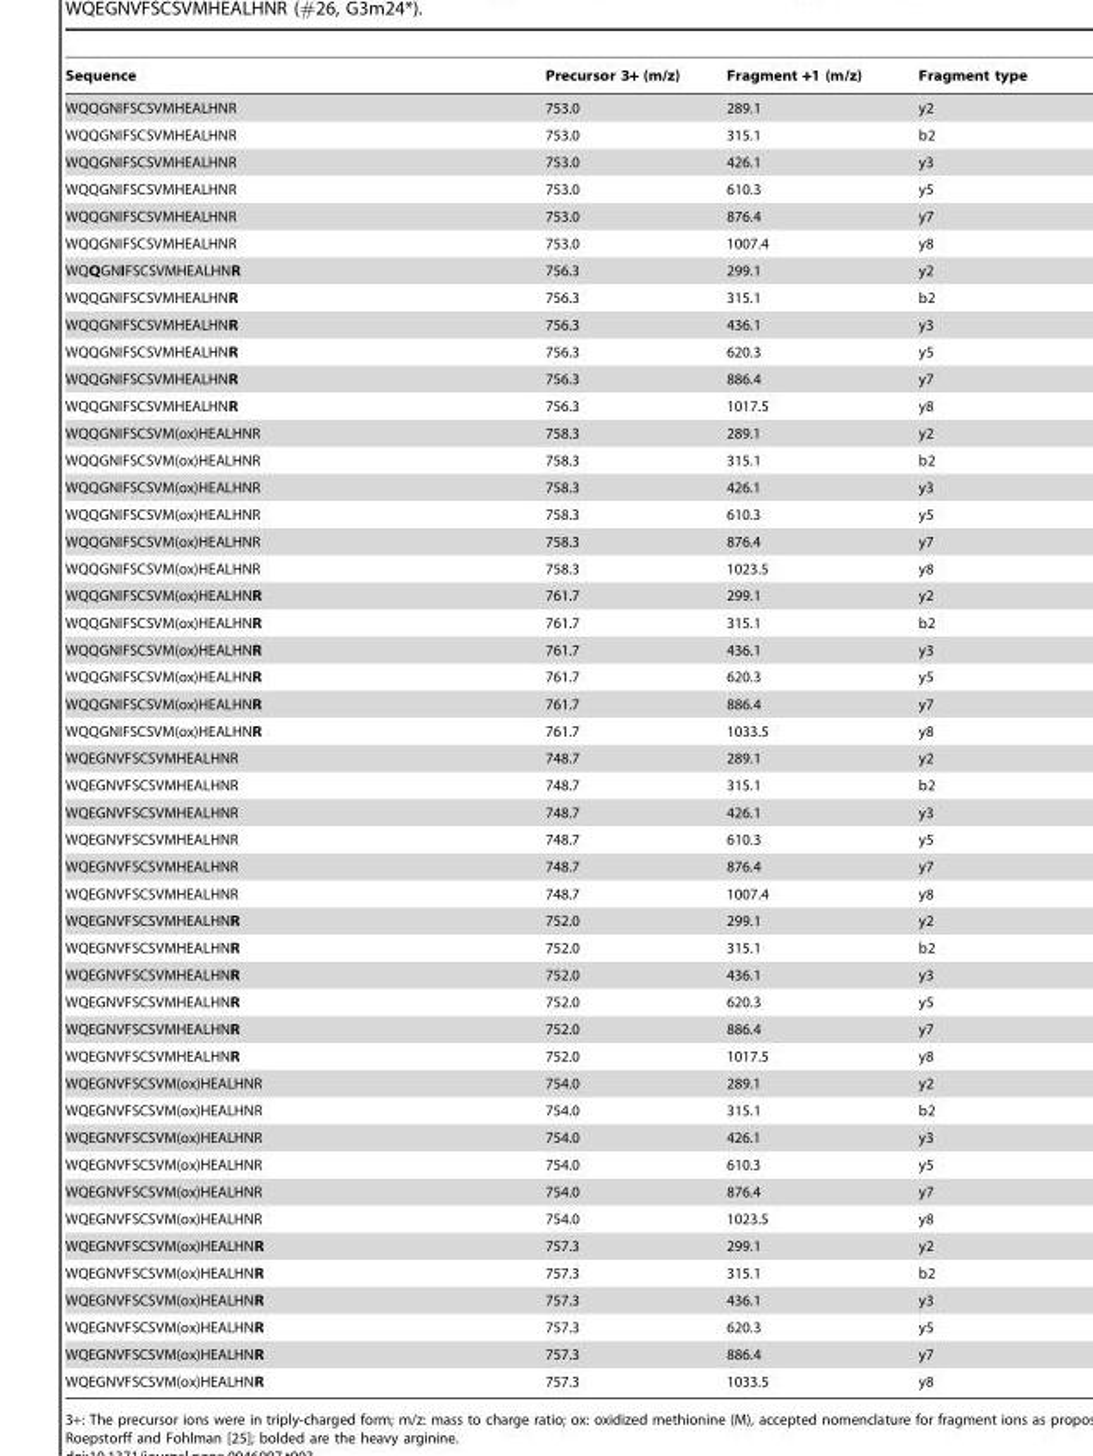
<table><thead><tr><td>Sequence</td><td>Precursor 3+ (m/z)</td><td>Fragment +1 (m/z)</td><td>Fragment type</td></tr></thead><tbody><tr><td>WQQGNIFSCSVMHEALHNR</td><td>753.0</td><td>289.1</td><td>y2</td></tr><tr><td>WQQGNIFSCSVMHEALHNR</td><td>753.0</td><td>315.1</td><td>b2</td></tr><tr><td>WQQGNIFSCSVMHEALHNR</td><td>753.0</td><td>426.1</td><td>y3</td></tr><tr><td>WQQGNIFSCSVMHEALHNR</td><td>753.0</td><td>610.3</td><td>y5</td></tr><tr><td>WQQGNIFSCSVMHEALHNR</td><td>753.0</td><td>876.4</td><td>y7</td></tr><tr><td>WQQGNIFSCSVMHEALHNR</td><td>753.0</td><td>1007.4</td><td>y8</td></tr><tr><td>WQQGNIFSCSVMHEALHNR</td><td>756.3</td><td>299.1</td><td>y2</td></tr><tr><td>WQQGNIFSCSVMHEALHNR</td><td>756.3</td><td>315.1</td><td>b2</td></tr><tr><td>WQQGNIFSCSVMHEALHNR</td><td>756.3</td><td>436.1</td><td>y3</td></tr><tr><td>WQQGNIFSCSVMHEALHNR</td><td>756.3</td><td>620.3</td><td>y5</td></tr><tr><td>WQQGNIFSCSVMHEALHNR</td><td>756.3</td><td>886.4</td><td>y7</td></tr><tr><td>WQQGNIFSCSVMHEALHNR</td><td>756.3</td><td>1017.5</td><td>y8</td></tr><tr><td>WQQGNIFSCSVM(ox)HEALHNR</td><td>758.3</td><td>289.1</td><td>y2</td></tr><tr><td>WQQGNIFSCSVM(ox)HEALHNR</td><td>758.3</td><td>315.1</td><td>b2</td></tr><tr><td>WQQGNIFSCSVM(ox)HEALHNR</td><td>758.3</td><td>426.1</td><td>y3</td></tr><tr><td>WQQGNIFSCSVM(ox)HEALHNR</td><td>758.3</td><td>610.3</td><td>y5</td></tr><tr><td>WQQGNIFSCSVM(ox)HEALHNR</td><td>758.3</td><td>876.4</td><td>y7</td></tr><tr><td>WQQGNIFSCSVM(ox)HEALHNR</td><td>758.3</td><td>1023.5</td><td>y8</td></tr><tr><td>WQQGNIFSCSVM(ox)HEALHNR</td><td>761.7</td><td>299.1</td><td>y2</td></tr><tr><td>WQQGNIFSCSVM(ox)HEALHNR</td><td>761.7</td><td>315.1</td><td>b2</td></tr><tr><td>WQQGNIFSCSVM(ox)HEALHNR</td><td>761.7</td><td>436.1</td><td>y3</td></tr><tr><td>WQQGNIFSCSVM(ox)HEALHNR</td><td>761.7</td><td>620.3</td><td>y5</td></tr><tr><td>WQQGNIFSCSVM(ox)HEALHNR</td><td>761.7</td><td>886.4</td><td>y7</td></tr><tr><td>WQQGNIFSCSVM(ox)HEALHNR</td><td>761.7</td><td>1033.5</td><td>y8</td></tr><tr><td>WQEGNVFSCSVMHEALHNR</td><td>748.7</td><td>289.1</td><td>y2</td></tr><tr><td>WQEGNVFSCSVMHEALHNR</td><td>748.7</td><td>315.1</td><td>b2</td></tr><tr><td>WQEGNVFSCSVMHEALHNR</td><td>748.7</td><td>426.1</td><td>y3</td></tr><tr><td>WQEGNVFSCSVMHEALHNR</td><td>748.7</td><td>610.3</td><td>y5</td></tr><tr><td>WQEGNVFSCSVMHEALHNR</td><td>748.7</td><td>876.4</td><td>y7</td></tr><tr><td>WQEGNVFSCSVMHEALHNR</td><td>748.7</td><td>1007.4</td><td>y8</td></tr><tr><td>WQEGNVFSCSVMHEALHNR</td><td>752.0</td><td>299.1</td><td>y2</td></tr><tr><td>WQEGNVFSCSVMHEALHNR</td><td>752.0</td><td>315.1</td><td>b2</td></tr><tr><td>WQEGNVFSCSVMHEALHNR</td><td>752.0</td><td>436.1</td><td>y3</td></tr><tr><td>WQEGNVFSCSVMHEALHNR</td><td>752.0</td><td>620.3</td><td>y5</td></tr><tr><td>WQEGNVFSCSVMHEALHNR</td><td>752.0</td><td>886.4</td><td>y7</td></tr><tr><td>WQEGNVFSCSVMHEALHNR</td><td>752.0</td><td>1017.5</td><td>y8</td></tr><tr><td>WQEGNVFSCSVM(ox)HEALHNR</td><td>754.0</td><td>289.1</td><td>y2</td></tr><tr><td>WQEGNVFSCSVM(ox)HEALHNR</td><td>754.0</td><td>315.1</td><td>b2</td></tr><tr><td>WQEGNVFSCSVM(ox)HEALHNR</td><td>754.0</td><td>426.1</td><td>y3</td></tr><tr><td>WQEGNVFSCSVM(ox)HEALHNR</td><td>754.0</td><td>610.3</td><td>y5</td></tr><tr><td>WQEGNVFSCSVM(ox)HEALHNR</td><td>754.0</td><td>876.4</td><td>y7</td></tr><tr><td>WQEGNVFSCSVM(ox)HEALHNR</td><td>754.0</td><td>1023.5</td><td>y8</td></tr><tr><td>WQEGNVFSCSVM(ox)HEALHNR</td><td>757.3</td><td>299.1</td><td>y2</td></tr><tr><td>WQEGNVFSCSVM(ox)HEALHNR</td><td>757.3</td><td>315.1</td><td>b2</td></tr><tr><td>WQEGNVFSCSVM(ox)HEALHNR</td><td>757.3</td><td>436.1</td><td>y3</td></tr><tr><td>WQEGNVFSCSVM(ox)HEALHNR</td><td>757.3</td><td>620.3</td><td>y5</td></tr><tr><td>WQEGNVFSCSVM(ox)HEALHNR</td><td>757.3</td><td>886.4</td><td>y7</td></tr><tr><td>WQEGNVFSCSVM(ox)HEALHNR</td><td>757.3</td><td>1033.5</td><td>y8</td></tr></tbody></table>